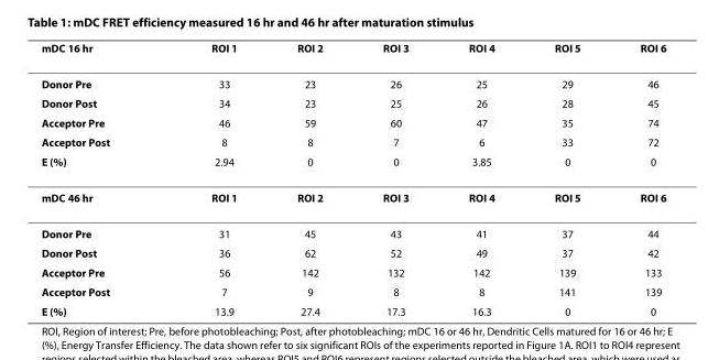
<table><thead><tr><td>mDC 16 hr</td><td>ROI 1</td><td>ROI 2</td><td>ROI 3</td><td>ROI 4</td><td>ROI 5</td><td>ROI 6</td></tr></thead><tbody><tr><td>Donor Pre</td><td>33</td><td>23</td><td>26</td><td>25</td><td>29</td><td>46</td></tr><tr><td>Donor Post</td><td>34</td><td>23</td><td>25</td><td>26</td><td>28</td><td>45</td></tr><tr><td>Acceptor Pre</td><td>46</td><td>59</td><td>60</td><td>47</td><td>35</td><td>74</td></tr><tr><td>Acceptor Post</td><td>8</td><td>8</td><td>7</td><td>6</td><td>33</td><td>72</td></tr><tr><td>E (%)</td><td>2.94</td><td>0</td><td>0</td><td>3.85</td><td>0</td><td>0</td></tr><tr><td>mDC 46 hr</td><td>ROI 1</td><td>ROI 2</td><td>ROI 3</td><td>ROI 4</td><td>ROI 5</td><td>ROI 6</td></tr><tr><td>Donor Pre</td><td>31</td><td>45</td><td>43</td><td>41</td><td>37</td><td>44</td></tr><tr><td>Donor Post</td><td>36</td><td>62</td><td>52</td><td>49</td><td>37</td><td>42</td></tr><tr><td>Acceptor Pre</td><td>56</td><td>142</td><td>132</td><td>142</td><td>139</td><td>133</td></tr><tr><td>Acceptor Post</td><td>7</td><td>9</td><td>8</td><td>8</td><td>141</td><td>139</td></tr><tr><td>E (%)</td><td>13.9</td><td>27.4</td><td>17.3</td><td>16.3</td><td>0</td><td>0</td></tr></tbody></table>